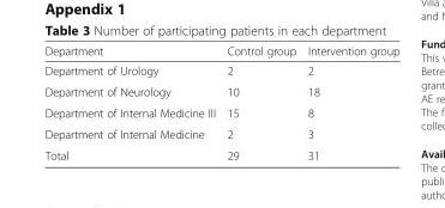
<table><thead><tr><td>Department</td><td>Control group</td><td>Intervention group</td></tr></thead><tbody><tr><td>Department of Urology</td><td>2</td><td>2</td></tr><tr><td>Department of Neurology</td><td>10</td><td>18</td></tr><tr><td>Department of Internal Medicine III</td><td>15</td><td>8</td></tr><tr><td>Department of Internal Medicine</td><td>2</td><td>3</td></tr><tr><td>Total</td><td>29</td><td>31</td></tr></tbody></table>